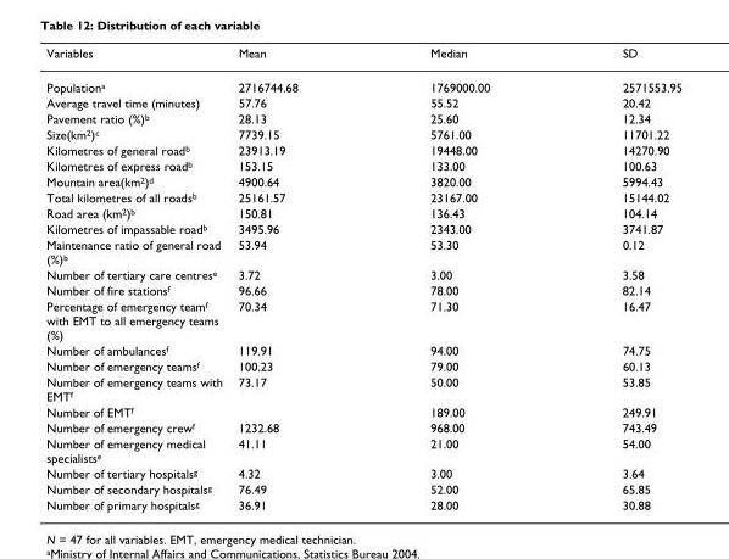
<table><thead><tr><td>Variables</td><td>Mean</td><td>Median</td><td>SD</td></tr></thead><tbody><tr><td>Population<sup>a</sup></td><td>2716744.68</td><td>1769000.00</td><td>2571553.95</td></tr><tr><td>Average travel time (minutes)</td><td>57.76</td><td>55.52</td><td>20.42</td></tr><tr><td>Pavement ratio (%)<sup>b</sup></td><td>28.13</td><td>25.60</td><td>12.34</td></tr><tr><td>Size(km<sup>2</sup>)<sup>c</sup></td><td>7739.15</td><td>5761.00</td><td>11701.22</td></tr><tr><td>Kilometres of general road<sup>b</sup></td><td>23913.19</td><td>19448.00</td><td>14270.90</td></tr><tr><td>Kilometres of express road<sup>b</sup></td><td>153.15</td><td>133.00</td><td>100.63</td></tr><tr><td>Mountain area(km<sup>2</sup>)<sup>d</sup></td><td>4900.64</td><td>3820.00</td><td>5994.43</td></tr><tr><td>Total kilometres of all roads<sup>b</sup></td><td>25161.57</td><td>23167.00</td><td>15144.02</td></tr><tr><td>Road area (km<sup>2</sup>)<sup>b</sup></td><td>150.81</td><td>136.43</td><td>104.14</td></tr><tr><td>Kilometres of impassable road<sup>b</sup></td><td>3495.96</td><td>2343.00</td><td>3741.87</td></tr><tr><td>Maintenance ratio of general road (%)<sup>b</sup></td><td>53.94</td><td>53.30</td><td>0.12</td></tr><tr><td>Number of tertiary care centres<sup>e</sup></td><td>3.72</td><td>3.00</td><td>3.58</td></tr><tr><td>Number of fire stations<sup>f</sup></td><td>96.66</td><td>78.00</td><td>82.14</td></tr><tr><td>Percentage of emergency team<sup>f</sup> with EMT to all emergency teams (%)</td><td>70.34</td><td>71.30</td><td>16.47</td></tr><tr><td>Number of ambulances<sup>f</sup></td><td>119.91</td><td>94.00</td><td>74.75</td></tr><tr><td>Number of emergency teams<sup>f</sup></td><td>100.23</td><td>79.00</td><td>60.13</td></tr><tr><td>Number of emergency teams with EMT<sup>f</sup></td><td>73.17</td><td>50.00</td><td>53.85</td></tr><tr><td>Number of EMT<sup>f</sup></td><td></td><td>189.00</td><td>249.91</td></tr><tr><td>Number of emergency crew<sup>f</sup></td><td>1232.68</td><td>968.00</td><td>743.49</td></tr><tr><td>Number of emergency medical specialists<sup>e</sup></td><td>41.11</td><td>21.00</td><td>54.00</td></tr><tr><td>Number of tertiary hospitals<sup>g</sup></td><td>4.32</td><td>3.00</td><td>3.64</td></tr><tr><td>Number of secondary hospitals<sup>g</sup></td><td>76.49</td><td>52.00</td><td>65.85</td></tr><tr><td>Number of primary hospitals<sup>g</sup></td><td>36.91</td><td>28.00</td><td>30.88</td></tr></tbody></table>